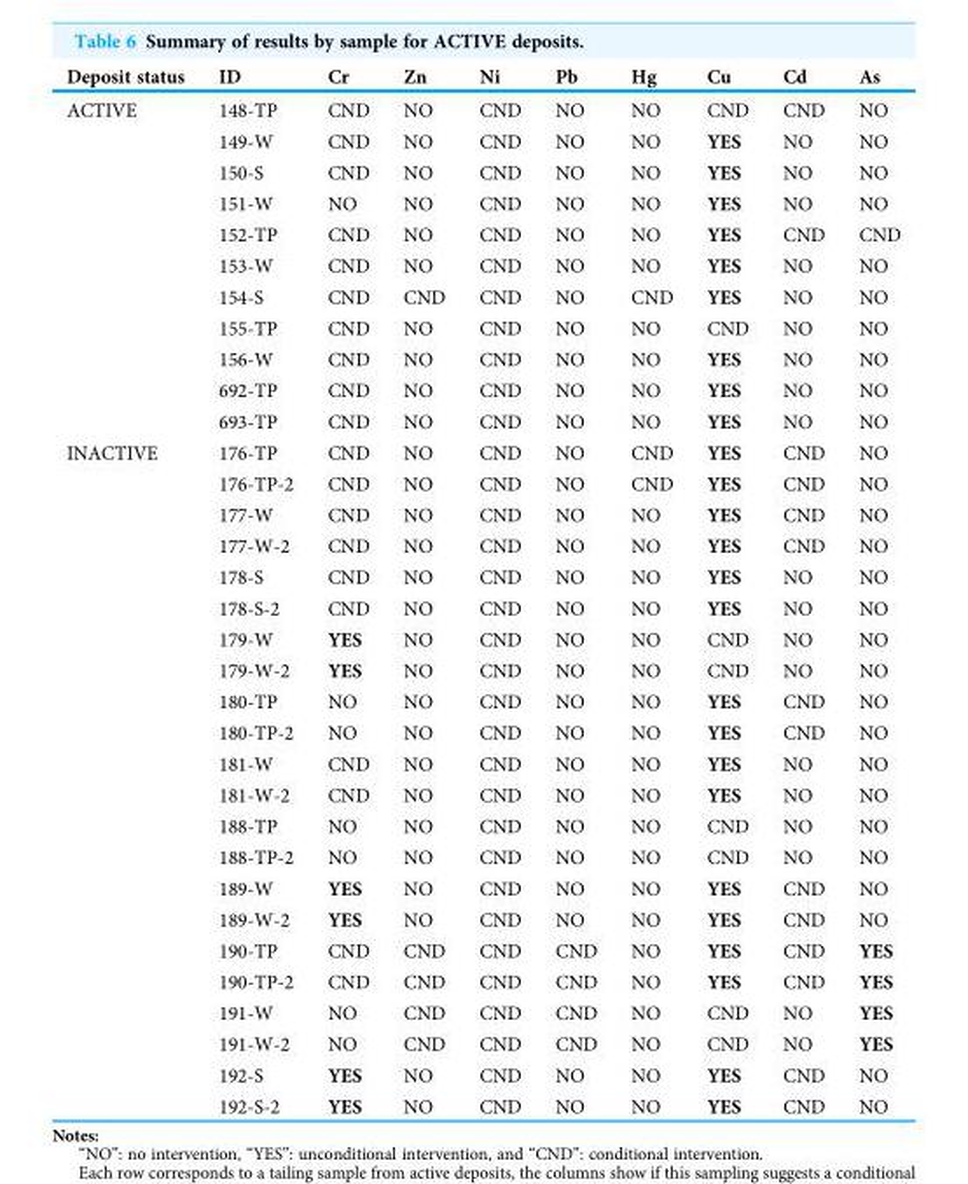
<table><thead><tr><td>Deposit status</td><td>ID</td><td>Cr</td><td>Zn</td><td>Ni</td><td>Pb</td><td>Hg</td><td>Cu</td><td>Cd</td><td>As</td></tr></thead><tbody><tr><td rowspan="11">ACTIVE</td><td>148-TP</td><td>CND</td><td>NO</td><td>CND</td><td>NO</td><td>NO</td><td>CND</td><td>CND</td><td>NO</td></tr><tr><td>149-W</td><td>CND</td><td>NO</td><td>CND</td><td>NO</td><td>NO</td><td>YES</td><td>NO</td><td>NO</td></tr><tr><td>150-S</td><td>CND</td><td>NO</td><td>CND</td><td>NO</td><td>NO</td><td>YES</td><td>NO</td><td>NO</td></tr><tr><td>151-W</td><td>NO</td><td>NO</td><td>CND</td><td>NO</td><td>NO</td><td>YES</td><td>NO</td><td>NO</td></tr><tr><td>152-TP</td><td>CND</td><td>NO</td><td>CND</td><td>NO</td><td>NO</td><td>YES</td><td>CND</td><td>CND</td></tr><tr><td>153-W</td><td>CND</td><td>NO</td><td>CND</td><td>NO</td><td>NO</td><td>YES</td><td>NO</td><td>NO</td></tr><tr><td>154-S</td><td>CND</td><td>CND</td><td>CND</td><td>NO</td><td>CND</td><td>YES</td><td>NO</td><td>NO</td></tr><tr><td>155-TP</td><td>CND</td><td>NO</td><td>CND</td><td>NO</td><td>NO</td><td>CND</td><td>NO</td><td>NO</td></tr><tr><td>156-W</td><td>CND</td><td>NO</td><td>CND</td><td>NO</td><td>NO</td><td>YES</td><td>NO</td><td>NO</td></tr><tr><td>692-TP</td><td>CND</td><td>NO</td><td>CND</td><td>NO</td><td>NO</td><td>YES</td><td>NO</td><td>NO</td></tr><tr><td>693-TP</td><td>CND</td><td>NO</td><td>CND</td><td>NO</td><td>NO</td><td>YES</td><td>NO</td><td>NO</td></tr><tr><td rowspan="22">INACTIVE</td><td>176-TP</td><td>CND</td><td>NO</td><td>CND</td><td>NO</td><td>CND</td><td>YES</td><td>CND</td><td>NO</td></tr><tr><td>176-TP-2</td><td>CND</td><td>NO</td><td>CND</td><td>NO</td><td>CND</td><td>YES</td><td>CND</td><td>NO</td></tr><tr><td>177-W</td><td>CND</td><td>NO</td><td>CND</td><td>NO</td><td>NO</td><td>YES</td><td>CND</td><td>NO</td></tr><tr><td>177-W-2</td><td>CND</td><td>NO</td><td>CND</td><td>NO</td><td>NO</td><td>YES</td><td>CND</td><td>NO</td></tr><tr><td>178-S</td><td>CND</td><td>NO</td><td>CND</td><td>NO</td><td>NO</td><td>YES</td><td>NO</td><td>NO</td></tr><tr><td>178-S-2</td><td>CND</td><td>NO</td><td>CND</td><td>NO</td><td>NO</td><td>YES</td><td>NO</td><td>NO</td></tr><tr><td>179-W</td><td>YES</td><td>NO</td><td>CND</td><td>NO</td><td>NO</td><td>CND</td><td>NO</td><td>NO</td></tr><tr><td>179-W-2</td><td>YES</td><td>NO</td><td>CND</td><td>NO</td><td>NO</td><td>CND</td><td>NO</td><td>NO</td></tr><tr><td>180-TP</td><td>NO</td><td>NO</td><td>CND</td><td>NO</td><td>NO</td><td>YES</td><td>CND</td><td>NO</td></tr><tr><td>180-TP-2</td><td>NO</td><td>NO</td><td>CND</td><td>NO</td><td>NO</td><td>YES</td><td>CND</td><td>NO</td></tr><tr><td>181-W</td><td>CND</td><td>NO</td><td>CND</td><td>NO</td><td>NO</td><td>YES</td><td>NO</td><td>NO</td></tr><tr><td>181-W-2</td><td>CND</td><td>NO</td><td>CND</td><td>NO</td><td>NO</td><td>YES</td><td>NO</td><td>NO</td></tr><tr><td>188-TP</td><td>NO</td><td>NO</td><td>CND</td><td>NO</td><td>NO</td><td>CND</td><td>NO</td><td>NO</td></tr><tr><td>188-TP-2</td><td>NO</td><td>NO</td><td>CND</td><td>NO</td><td>NO</td><td>CND</td><td>NO</td><td>NO</td></tr><tr><td>189-W</td><td>YES</td><td>NO</td><td>CND</td><td>NO</td><td>NO</td><td>YES</td><td>CND</td><td>NO</td></tr><tr><td>189-W-2</td><td>YES</td><td>NO</td><td>CND</td><td>NO</td><td>NO</td><td>YES</td><td>CND</td><td>NO</td></tr><tr><td>190-TP</td><td>CND</td><td>CND</td><td>CND</td><td>CND</td><td>NO</td><td>YES</td><td>CND</td><td>YES</td></tr><tr><td>190-TP-2</td><td>CND</td><td>CND</td><td>CND</td><td>CND</td><td>NO</td><td>YES</td><td>CND</td><td>YES</td></tr><tr><td>191-W</td><td>NO</td><td>CND</td><td>CND</td><td>CND</td><td>NO</td><td>CND</td><td>NO</td><td>YES</td></tr><tr><td>191-W-2</td><td>NO</td><td>CND</td><td>CND</td><td>CND</td><td>NO</td><td>CND</td><td>NO</td><td>YES</td></tr><tr><td>192-S</td><td>YES</td><td>NO</td><td>CND</td><td>NO</td><td>NO</td><td>YES</td><td>CND</td><td>NO</td></tr><tr><td>192-S-2</td><td>YES</td><td>NO</td><td>CND</td><td>NO</td><td>NO</td><td>YES</td><td>CND</td><td>NO</td></tr></tbody></table>